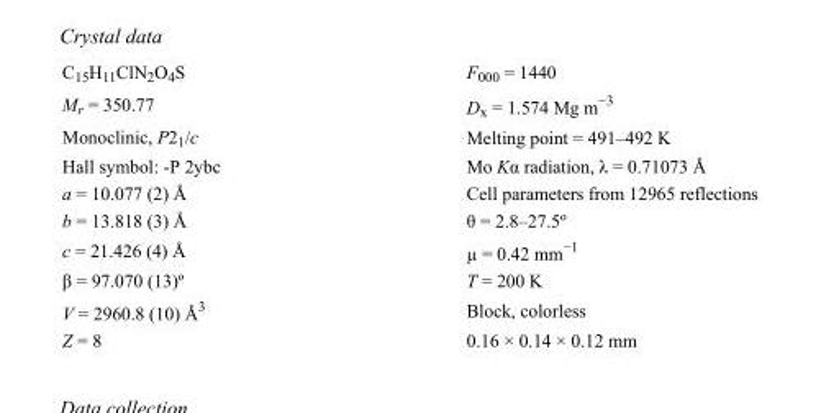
<table><tbody><tr><td>C<sub>15</sub>H<sub>11</sub>ClN<sub>2</sub>O<sub>4</sub>S</td><td>F000 = 1440</td></tr><tr><td>M<sub>r</sub> = 350.77</td><td>D<sub>x</sub> = 1.574 Mg m<sup>−3</sup></td></tr><tr><td>Monoclinic, P2<sub>1</sub>/c</td><td>Melting point = 491–492 K</td></tr><tr><td>Hall symbol: -P 2ybc</td><td>Mo Kα radiation, λ = 0.71073 Å</td></tr><tr><td>a = 10.077 (2) Å</td><td>Cell parameters from 12965 reflections</td></tr><tr><td>b = 13.818 (3) Å</td><td>θ = 2.8–27.5º</td></tr><tr><td>c = 21.426 (4) Å</td><td>µ = 0.42 mm<sup>−1</sup></td></tr><tr><td>β = 97.070 (13)º</td><td>T = 200 K</td></tr><tr><td>V = 2960.8 (10) Å<sup>3</sup></td><td>Block, colorless</td></tr><tr><td>Z = 8</td><td>0.16 × 0.14 × 0.12 mm</td></tr></tbody></table>